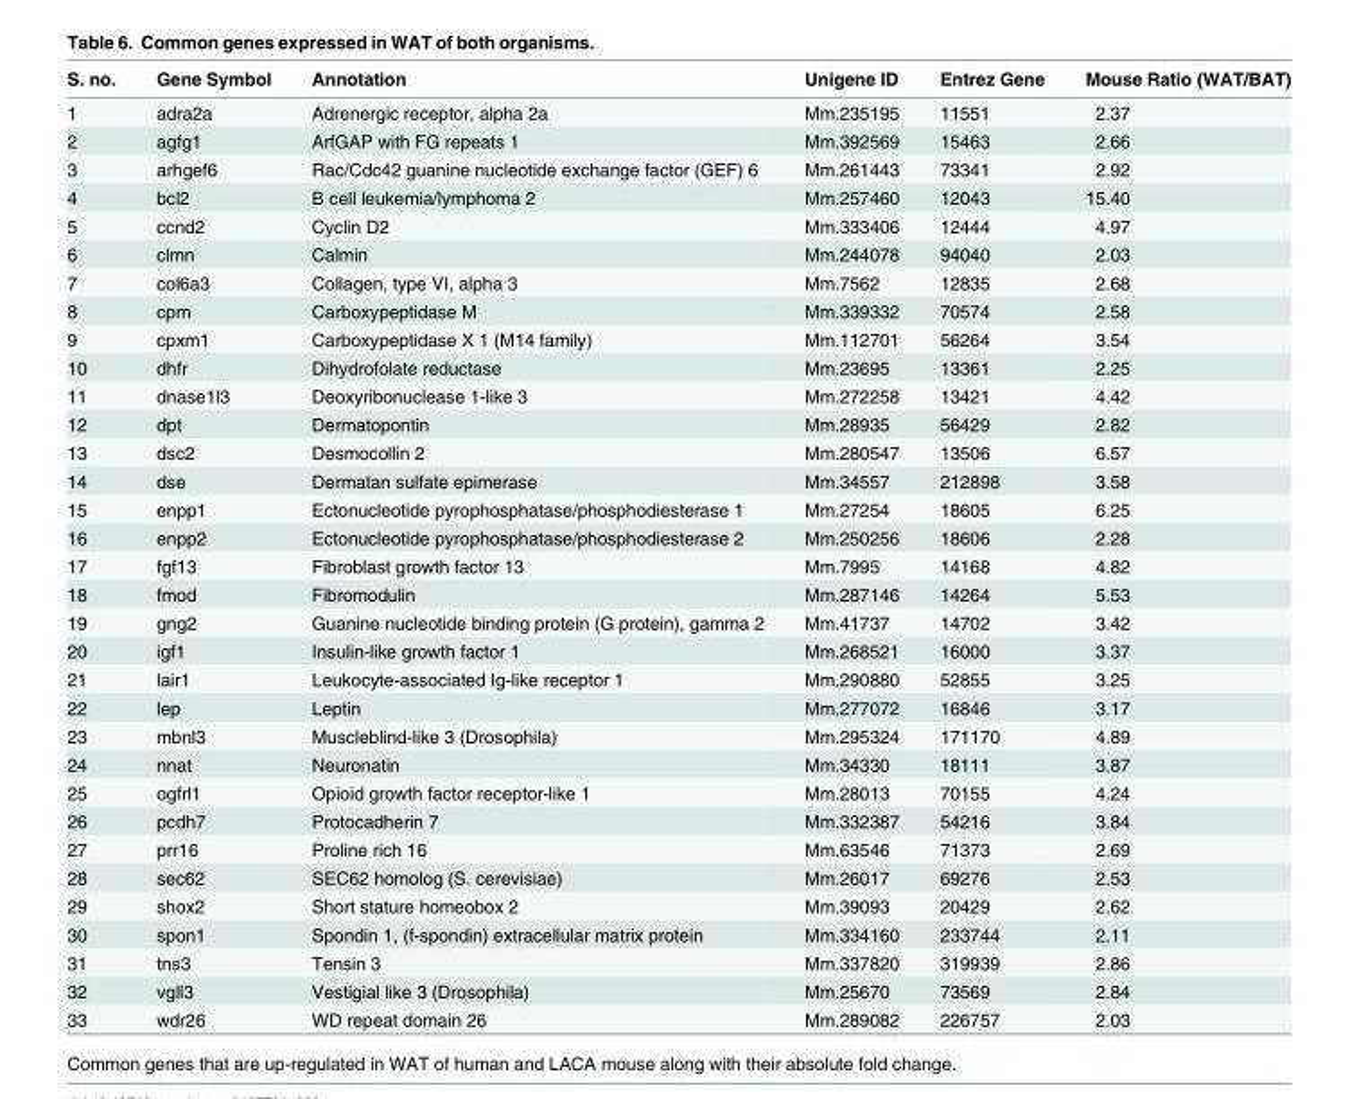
<table><thead><tr><td>S. no.</td><td>Gene Symbol</td><td>Annotation</td><td>Unigene ID</td><td>Entrez Gene</td><td>Mouse Ratio (WAT/BAT)</td></tr></thead><tbody><tr><td>1</td><td>adra2a</td><td>Adrenergic receptor, alpha 2a</td><td>Mm.235195</td><td>11551</td><td>2.37</td></tr><tr><td>2</td><td>agfg1</td><td>ArfGAP with FG repeats 1</td><td>Mm.392569</td><td>15463</td><td>2.66</td></tr><tr><td>3</td><td>arhgef6</td><td>Rac/Cdc42 guanine nucleotide exchange factor (GEF) 6</td><td>Mm.261443</td><td>73341</td><td>2.92</td></tr><tr><td>4</td><td>bcl2</td><td>B cell leukemia/lymphoma 2</td><td>Mm.257460</td><td>12043</td><td>15.40</td></tr><tr><td>5</td><td>ccnd2</td><td>Cyclin D2</td><td>Mm.333406</td><td>12444</td><td>4.97</td></tr><tr><td>6</td><td>clmn</td><td>Calmin</td><td>Mm.244078</td><td>94040</td><td>2.03</td></tr><tr><td>7</td><td>col6a3</td><td>Collagen, type VI, alpha 3</td><td>Mm.7562</td><td>12835</td><td>2.68</td></tr><tr><td>8</td><td>cpm</td><td>Carboxypeptidase M</td><td>Mm.339332</td><td>70574</td><td>2.58</td></tr><tr><td>9</td><td>cpxm1</td><td>Carboxypeptidase X 1 (M14 family)</td><td>Mm.112701</td><td>56264</td><td>3.54</td></tr><tr><td>10</td><td>dhfr</td><td>Dihydrofolate reductase</td><td>Mm.23695</td><td>13361</td><td>2.25</td></tr><tr><td>11</td><td>dnase1l3</td><td>Deoxyribonuclease 1-like 3</td><td>Mm.272258</td><td>13421</td><td>4.42</td></tr><tr><td>12</td><td>dpt</td><td>Dermatopontin</td><td>Mm.28935</td><td>56429</td><td>2.82</td></tr><tr><td>13</td><td>dsc2</td><td>Desmocollin 2</td><td>Mm.280547</td><td>13506</td><td>6.57</td></tr><tr><td>14</td><td>dse</td><td>Dermatan sulfate epimerase</td><td>Mm.34557</td><td>212898</td><td>3.58</td></tr><tr><td>15</td><td>enpp1</td><td>Ectonucleotide pyrophosphatase/phosphodiesterase 1</td><td>Mm.27254</td><td>18605</td><td>6.25</td></tr><tr><td>16</td><td>enpp2</td><td>Ectonucleotide pyrophosphatase/phosphodiesterase 2</td><td>Mm.250256</td><td>18606</td><td>2.28</td></tr><tr><td>17</td><td>fgf13</td><td>Fibroblast growth factor 13</td><td>Mm.7995</td><td>14168</td><td>4.82</td></tr><tr><td>18</td><td>fmod</td><td>Fibromodulin</td><td>Mm.287146</td><td>14264</td><td>5.53</td></tr><tr><td>19</td><td>gng2</td><td>Guanine nucleotide binding protein (G protein), gamma 2</td><td>Mm.41737</td><td>14702</td><td>3.42</td></tr><tr><td>20</td><td>igf1</td><td>Insulin-like growth factor 1</td><td>Mm.268521</td><td>16000</td><td>3.37</td></tr><tr><td>21</td><td>lair1</td><td>Leukocyte-associated Ig-like receptor 1</td><td>Mm.290880</td><td>52855</td><td>3.25</td></tr><tr><td>22</td><td>lep</td><td>Leptin</td><td>Mm.277072</td><td>16846</td><td>3.17</td></tr><tr><td>23</td><td>mbnl3</td><td>Muscleblind-like 3 (Drosophila)</td><td>Mm.295324</td><td>171170</td><td>4.89</td></tr><tr><td>24</td><td>nnat</td><td>Neuronatin</td><td>Mm.34330</td><td>18111</td><td>3.87</td></tr><tr><td>25</td><td>ogfrl1</td><td>Opioid growth factor receptor-like 1</td><td>Mm.28013</td><td>70155</td><td>4.24</td></tr><tr><td>26</td><td>pcdh7</td><td>Protocadherin 7</td><td>Mm.332387</td><td>54216</td><td>3.84</td></tr><tr><td>27</td><td>prr16</td><td>Proline rich 16</td><td>Mm.63546</td><td>71373</td><td>2.69</td></tr><tr><td>28</td><td>sec62</td><td>SEC62 homolog (S. cerevisiae)</td><td>Mm.26017</td><td>69276</td><td>2.53</td></tr><tr><td>29</td><td>shox2</td><td>Short stature homeobox 2</td><td>Mm.39093</td><td>20429</td><td>2.62</td></tr><tr><td>30</td><td>spon1</td><td>Spondin 1, (f-spondin) extracellular matrix protein</td><td>Mm.334160</td><td>233744</td><td>2.11</td></tr><tr><td>31</td><td>tns3</td><td>Tensin 3</td><td>Mm.337820</td><td>319939</td><td>2.86</td></tr><tr><td>32</td><td>vgll3</td><td>Vestigial like 3 (Drosophila)</td><td>Mm.25670</td><td>73569</td><td>2.84</td></tr><tr><td>33</td><td>wdr26</td><td>WD repeat domain 26</td><td>Mm.289082</td><td>226757</td><td>2.03</td></tr></tbody></table>